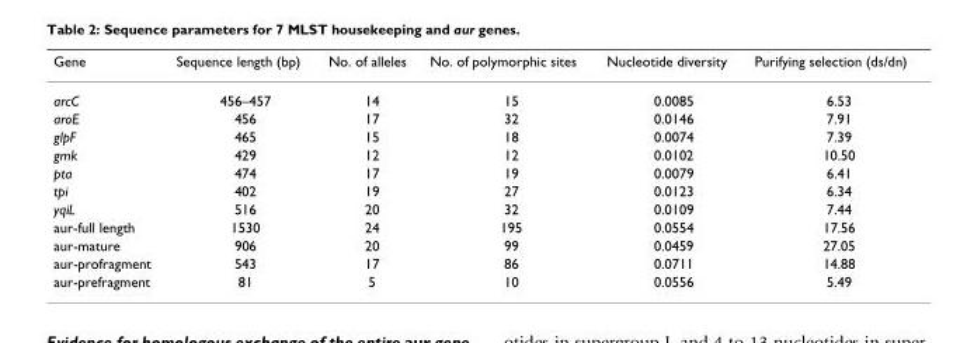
<table><thead><tr><td>Gene</td><td>Sequence length (bp)</td><td>No. of alleles</td><td>No. of polymorphic sites</td><td>Nucleotide diversity</td><td>Purifying selection (ds/dn)</td></tr></thead><tbody><tr><td>arcC</td><td>456–457</td><td>14</td><td>15</td><td>0.0085</td><td>6.53</td></tr><tr><td>aroE</td><td>456</td><td>17</td><td>32</td><td>0.0146</td><td>7.91</td></tr><tr><td>glpF</td><td>465</td><td>15</td><td>18</td><td>0.0074</td><td>7.39</td></tr><tr><td>gmk</td><td>429</td><td>12</td><td>12</td><td>0.0102</td><td>10.50</td></tr><tr><td>pta</td><td>474</td><td>17</td><td>19</td><td>0.0079</td><td>6.41</td></tr><tr><td>tpi</td><td>402</td><td>19</td><td>27</td><td>0.0123</td><td>6.34</td></tr><tr><td>yqiL</td><td>516</td><td>20</td><td>32</td><td>0.0109</td><td>7.44</td></tr><tr><td>aur-full length</td><td>1530</td><td>24</td><td>195</td><td>0.0554</td><td>17.56</td></tr><tr><td>aur-mature</td><td>906</td><td>20</td><td>99</td><td>0.0459</td><td>27.05</td></tr><tr><td>aur-profragment</td><td>543</td><td>17</td><td>86</td><td>0.0711</td><td>14.88</td></tr><tr><td>aur-prefragment</td><td>81</td><td>5</td><td>10</td><td>0.0556</td><td>5.49</td></tr></tbody></table>